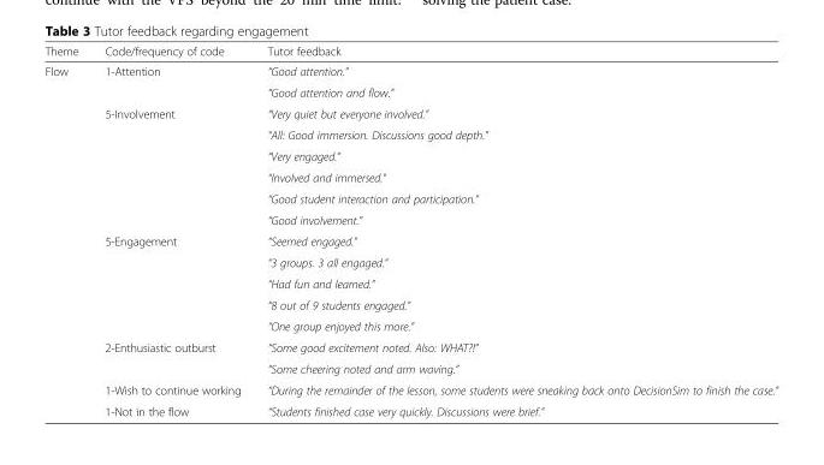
<table><thead><tr><td>Theme</td><td>Code/frequency of code</td><td>Tutor feedback</td></tr></thead><tbody><tr><td rowspan="17">Flow</td><td rowspan="2">1-Attention</td><td>“Good attention.”</td></tr><tr><td>“Good attention and flow.”</td></tr><tr><td rowspan="6">5-Involvement</td><td>“Very quiet but everyone involved.”</td></tr><tr><td>“All: Good immersion. Discussions good depth.”</td></tr><tr><td>“Very engaged.”</td></tr><tr><td>“Involved and immersed.”</td></tr><tr><td>“Good student interaction and participation.”</td></tr><tr><td>“Good involvement.”</td></tr><tr><td rowspan="5">5-Engagement</td><td>“Seemed engaged.”</td></tr><tr><td>“3 groups. 3 all engaged.”</td></tr><tr><td>“Had fun and learned.”</td></tr><tr><td>“8 out of 9 students engaged.”</td></tr><tr><td>“One group enjoyed this more.”</td></tr><tr><td rowspan="2">2-Enthusiastic outburst</td><td>“Some good excitement noted. Also: WHAT?!”</td></tr><tr><td>“Some cheering noted and arm waving.”</td></tr><tr><td>1-Wish to continue working</td><td>“During the remainder of the lesson, some students were sneaking back onto DecisionSim to finish the case.”</td></tr><tr><td>1-Not in the flow</td><td>“Students finished case very quickly. Discussions were brief.”</td></tr></tbody></table>